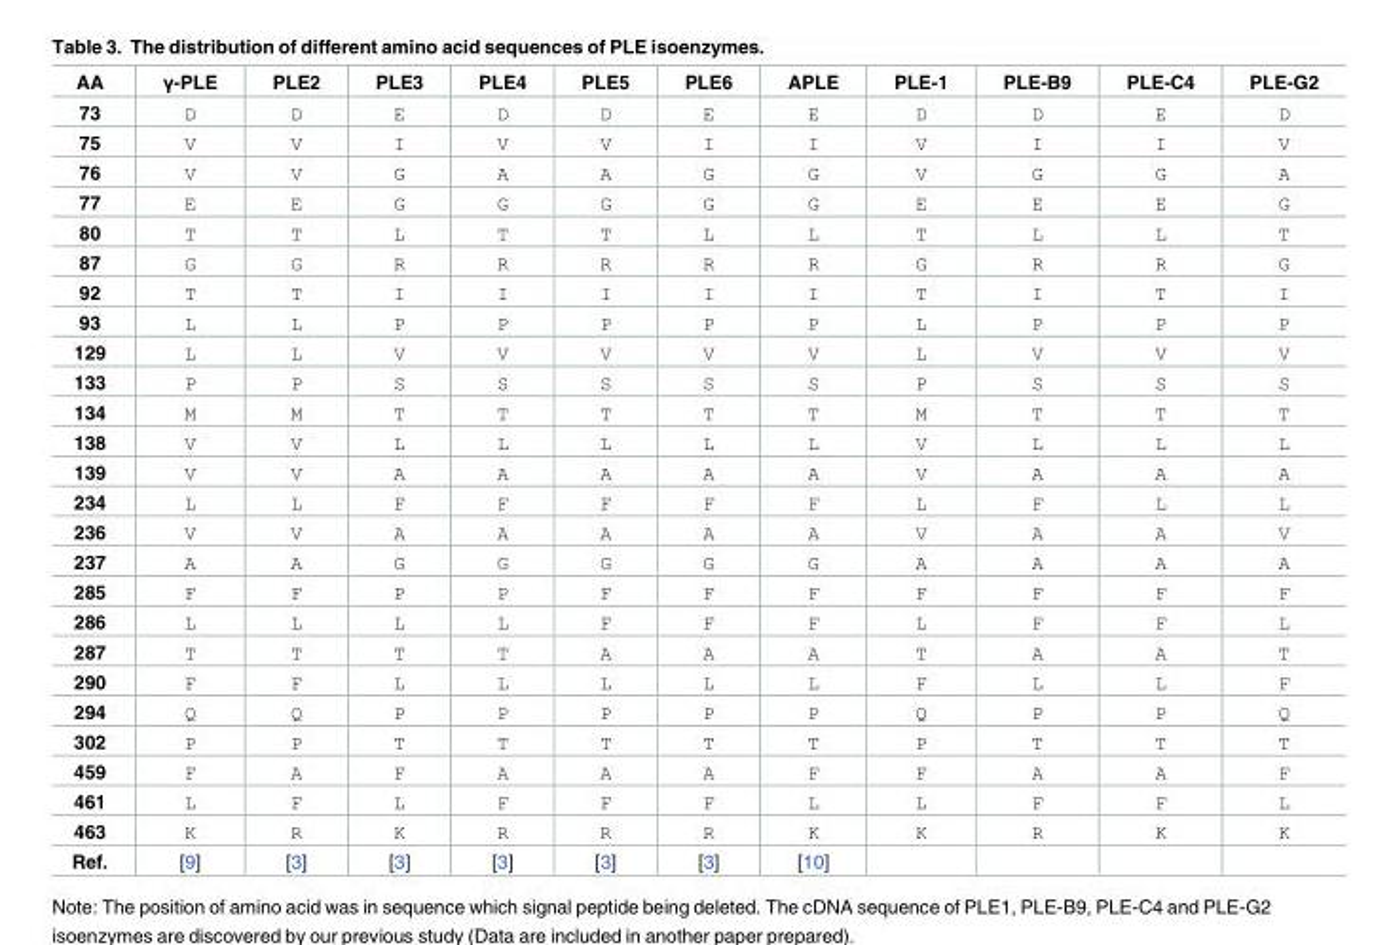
<table><thead><tr><td>AA</td><td>γ-PLE</td><td>PLE2</td><td>PLE3</td><td>PLE4</td><td>PLE5</td><td>PLE6</td><td>APLE</td><td>PLE-1</td><td>PLE-B9</td><td>PLE-C4</td><td>PLE-G2</td></tr></thead><tbody><tr><td>73</td><td>D</td><td>D</td><td>E</td><td>D</td><td>D</td><td>E</td><td>E</td><td>D</td><td>D</td><td>E</td><td>D</td></tr><tr><td>75</td><td>V</td><td>V</td><td>I</td><td>V</td><td>V</td><td>I</td><td>I</td><td>V</td><td>I</td><td>I</td><td>V</td></tr><tr><td>76</td><td>V</td><td>V</td><td>G</td><td>A</td><td>A</td><td>G</td><td>G</td><td>V</td><td>G</td><td>G</td><td>A</td></tr><tr><td>77</td><td>E</td><td>E</td><td>G</td><td>G</td><td>G</td><td>G</td><td>G</td><td>E</td><td>E</td><td>E</td><td>G</td></tr><tr><td>80</td><td>T</td><td>T</td><td>L</td><td>T</td><td>T</td><td>L</td><td>L</td><td>T</td><td>L</td><td>L</td><td>T</td></tr><tr><td>87</td><td>G</td><td>G</td><td>R</td><td>R</td><td>R</td><td>R</td><td>R</td><td>G</td><td>R</td><td>R</td><td>G</td></tr><tr><td>92</td><td>T</td><td>T</td><td>I</td><td>I</td><td>I</td><td>I</td><td>I</td><td>T</td><td>I</td><td>T</td><td>I</td></tr><tr><td>93</td><td>L</td><td>L</td><td>P</td><td>P</td><td>P</td><td>P</td><td>P</td><td>L</td><td>P</td><td>P</td><td>P</td></tr><tr><td>129</td><td>L</td><td>L</td><td>V</td><td>V</td><td>V</td><td>V</td><td>V</td><td>L</td><td>V</td><td>V</td><td>V</td></tr><tr><td>133</td><td>P</td><td>P</td><td>S</td><td>S</td><td>S</td><td>S</td><td>S</td><td>P</td><td>S</td><td>S</td><td>S</td></tr><tr><td>134</td><td>M</td><td>M</td><td>T</td><td>T</td><td>T</td><td>T</td><td>T</td><td>M</td><td>T</td><td>T</td><td>T</td></tr><tr><td>138</td><td>V</td><td>V</td><td>L</td><td>L</td><td>L</td><td>L</td><td>L</td><td>V</td><td>L</td><td>L</td><td>L</td></tr><tr><td>139</td><td>V</td><td>V</td><td>A</td><td>A</td><td>A</td><td>A</td><td>A</td><td>V</td><td>A</td><td>A</td><td>A</td></tr><tr><td>234</td><td>L</td><td>L</td><td>F</td><td>F</td><td>F</td><td>F</td><td>F</td><td>L</td><td>F</td><td>L</td><td>L</td></tr><tr><td>236</td><td>V</td><td>V</td><td>A</td><td>A</td><td>A</td><td>A</td><td>A</td><td>V</td><td>A</td><td>A</td><td>V</td></tr><tr><td>237</td><td>A</td><td>A</td><td>G</td><td>G</td><td>G</td><td>G</td><td>G</td><td>A</td><td>A</td><td>A</td><td>A</td></tr><tr><td>285</td><td>F</td><td>F</td><td>P</td><td>P</td><td>F</td><td>F</td><td>F</td><td>F</td><td>F</td><td>F</td><td>F</td></tr><tr><td>286</td><td>L</td><td>L</td><td>L</td><td>L</td><td>F</td><td>F</td><td>F</td><td>L</td><td>F</td><td>F</td><td>L</td></tr><tr><td>287</td><td>T</td><td>T</td><td>T</td><td>T</td><td>A</td><td>A</td><td>A</td><td>T</td><td>A</td><td>A</td><td>T</td></tr><tr><td>290</td><td>F</td><td>F</td><td>L</td><td>L</td><td>L</td><td>L</td><td>L</td><td>F</td><td>L</td><td>L</td><td>F</td></tr><tr><td>294</td><td>Q</td><td>Q</td><td>P</td><td>P</td><td>P</td><td>P</td><td>P</td><td>Q</td><td>P</td><td>P</td><td>Q</td></tr><tr><td>302</td><td>P</td><td>P</td><td>T</td><td>T</td><td>T</td><td>T</td><td>T</td><td>P</td><td>T</td><td>T</td><td>T</td></tr><tr><td>459</td><td>F</td><td>A</td><td>F</td><td>A</td><td>A</td><td>A</td><td>F</td><td>F</td><td>A</td><td>A</td><td>F</td></tr><tr><td>461</td><td>L</td><td>F</td><td>L</td><td>F</td><td>F</td><td>F</td><td>L</td><td>L</td><td>F</td><td>F</td><td>L</td></tr><tr><td>463</td><td>K</td><td>R</td><td>K</td><td>R</td><td>R</td><td>R</td><td>K</td><td>K</td><td>R</td><td>K</td><td>K</td></tr><tr><td>Ref.</td><td>[9]</td><td>[3]</td><td>[3]</td><td>[3]</td><td>[3]</td><td>[3]</td><td>[10]</td><td></td><td></td><td></td><td></td></tr></tbody></table>